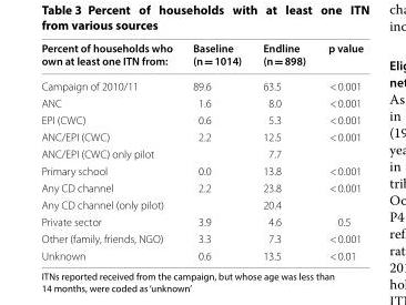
<table><thead><tr><td>Percent of households who own at least one ITN from:</td><td>Baseline (n = 1014)</td><td>Endline (n = 898)</td><td>p value</td></tr></thead><tbody><tr><td>Campaign of 2010/11</td><td>89.6</td><td>63.5</td><td>&lt; 0.001</td></tr><tr><td>ANC</td><td>1.6</td><td>8.0</td><td>&lt; 0.001</td></tr><tr><td>EPI (CWC)</td><td>0.6</td><td>5.3</td><td>&lt; 0.001</td></tr><tr><td>ANC/EPI (CWC)</td><td>2.2</td><td>12.5</td><td>&lt; 0.001</td></tr><tr><td>ANC/EPI (CWC) only pilot</td><td></td><td>7.7</td><td></td></tr><tr><td>Primary school</td><td>0.0</td><td>13.8</td><td>&lt; 0.001</td></tr><tr><td>Any CD channel</td><td>2.2</td><td>23.8</td><td>&lt; 0.001</td></tr><tr><td>Any CD channel (only pilot)</td><td></td><td>20.4</td><td></td></tr><tr><td>Private sector</td><td>3.9</td><td>4.6</td><td>0.5</td></tr><tr><td>Other (family, friends, NGO)</td><td>3.3</td><td>7.3</td><td>&lt; 0.001</td></tr><tr><td>Unknown</td><td>0.6</td><td>13.5</td><td>&lt; 0.01</td></tr></tbody></table>